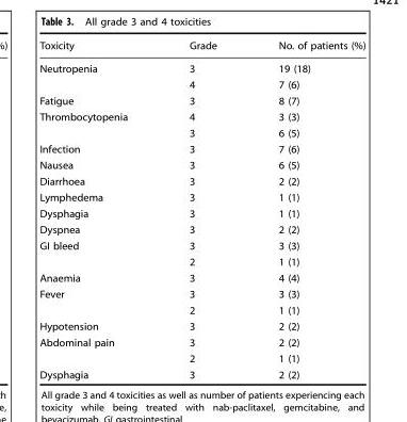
<table><thead><tr><td>Toxicity</td><td>Grade</td><td>No. of patients (%)</td></tr></thead><tbody><tr><td rowspan="2">Neutropenia</td><td>3</td><td>19 (18)</td></tr><tr><td>4</td><td>7 (6)</td></tr><tr><td>Fatigue</td><td>3</td><td>8 (7)</td></tr><tr><td rowspan="2">Thrombocytopenia</td><td>4</td><td>3 (3)</td></tr><tr><td>3</td><td>6 (5)</td></tr><tr><td>Infection</td><td>3</td><td>7 (6)</td></tr><tr><td>Nausea</td><td>3</td><td>6 (5)</td></tr><tr><td>Diarrhoea</td><td>3</td><td>2 (2)</td></tr><tr><td>Lymphedema</td><td>3</td><td>1 (1)</td></tr><tr><td>Dysphagia</td><td>3</td><td>1 (1)</td></tr><tr><td>Dyspnea</td><td>3</td><td>2 (2)</td></tr><tr><td rowspan="2">GI bleed</td><td>3</td><td>3 (3)</td></tr><tr><td>2</td><td>1 (1)</td></tr><tr><td>Anaemia</td><td>3</td><td>4 (4)</td></tr><tr><td rowspan="2">Fever</td><td>3</td><td>3 (3)</td></tr><tr><td>2</td><td>1 (1)</td></tr><tr><td>Hypotension</td><td>3</td><td>2 (2)</td></tr><tr><td rowspan="2">Abdominal pain</td><td>3</td><td>2 (2)</td></tr><tr><td>2</td><td>1 (1)</td></tr><tr><td>Dysphagia</td><td>3</td><td>2 (2)</td></tr></tbody></table>